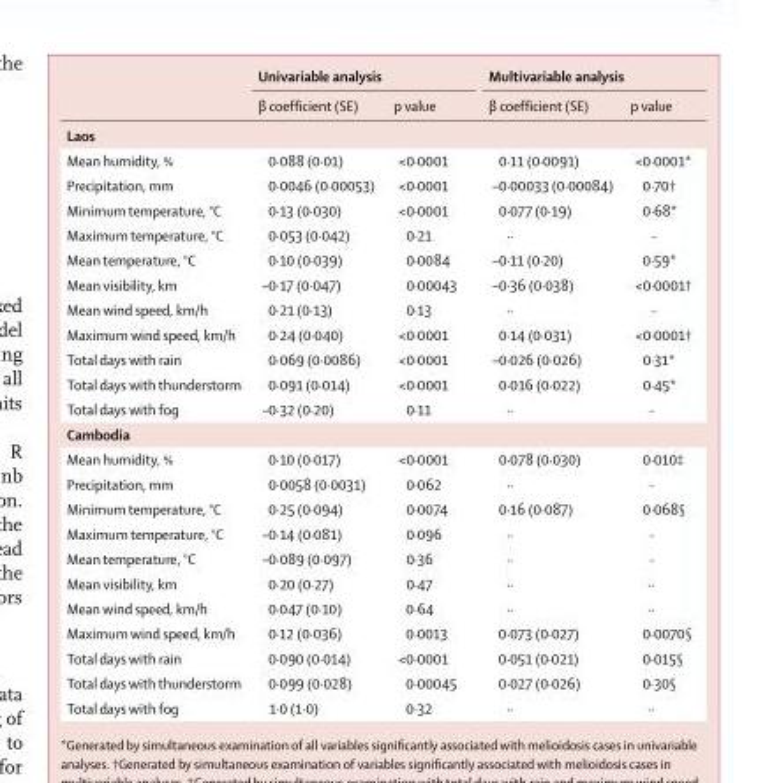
<table><thead><tr><td rowspan="2"></td><td colspan="2">Univariable analysis</td><td colspan="2">Multivariable analysis</td></tr><tr><td>β coefficient (SE)</td><td>p value</td><td>β coefficient (SE)</td><td>p value</td></tr></thead><tbody><tr><td colspan="5">Laos</td></tr><tr><td>Mean humidity, %</td><td>0·088 (0·01)</td><td>&lt;0·0001</td><td>0·11 (0·0091)</td><td>&lt;0·0001*</td></tr><tr><td>Precipitation, mm</td><td>0·0046 (0·00053)</td><td>&lt;0·0001</td><td>–0·00033 (0·00084)</td><td>0·70†</td></tr><tr><td>Minimum temperature, °C</td><td>0·13 (0·030)</td><td>&lt;0·0001</td><td>0·077 (0·19)</td><td>0·68*</td></tr><tr><td>Maximum temperature, °C</td><td>0·053 (0·042)</td><td>0·21</td><td>··</td><td>··</td></tr><tr><td>Mean temperature, °C</td><td>0·10 (0·039)</td><td>0·0084</td><td>–0·11 (0·20)</td><td>0·59*</td></tr><tr><td>Mean visibility, km</td><td>–0·17 (0·047)</td><td>0·00043</td><td>–0·36 (0·038)</td><td>&lt;0·0001†</td></tr><tr><td>Mean wind speed, km/h</td><td>0·21 (0·13)</td><td>0·13</td><td>··</td><td>··</td></tr><tr><td>Maximum wind speed, km/h</td><td>0·24 (0·040)</td><td>&lt;0·0001</td><td>0·14 (0·031)</td><td>&lt;0·0001†</td></tr><tr><td>Total days with rain</td><td>0·069 (0·0086)</td><td>&lt;0·0001</td><td>–0·026 (0·026)</td><td>0·31*</td></tr><tr><td>Total days with thunderstorm</td><td>0·091 (0·014)</td><td>&lt;0·0001</td><td>0·016 (0·022)</td><td>0·45*</td></tr><tr><td>Total days with fog</td><td>–0·32 (0·20)</td><td>0·11</td><td>··</td><td>··</td></tr><tr><td colspan="5">Cambodia</td></tr><tr><td>Mean humidity, %</td><td>0·10 (0·017)</td><td>&lt;0·0001</td><td>0·078 (0·030)</td><td>0·010‡</td></tr><tr><td>Precipitation, mm</td><td>0·0058 (0·0031)</td><td>0·062</td><td>··</td><td>··</td></tr><tr><td>Minimum temperature, °C</td><td>0·25 (0·094)</td><td>0·0074</td><td>0·16 (0·087)</td><td>0·068§</td></tr><tr><td>Maximum temperature, °C</td><td>–0·14 (0·081)</td><td>0·096</td><td>··</td><td>··</td></tr><tr><td>Mean temperature, °C</td><td>–0·089 (0·097)</td><td>0·36</td><td>··</td><td>··</td></tr><tr><td>Mean visibility, km</td><td>0·20 (0·27)</td><td>0·47</td><td>··</td><td>··</td></tr><tr><td>Mean wind speed, km/h</td><td>0·047 (0·10)</td><td>0·64</td><td>··</td><td>··</td></tr><tr><td>Maximum wind speed, km/h</td><td>0·12 (0·036)</td><td>0·0013</td><td>0·073 (0·027)</td><td>0·0070§</td></tr><tr><td>Total days with rain</td><td>0·090 (0·014)</td><td>&lt;0·0001</td><td>0·051 (0·021)</td><td>0·015§</td></tr><tr><td>Total days with thunderstorm</td><td>0·099 (0·028)</td><td>0·00045</td><td>0·027 (0·026)</td><td>0·30§</td></tr><tr><td>Total days with fog</td><td>1·0 (1·0)</td><td>0·32</td><td>··</td><td>··</td></tr></tbody></table>